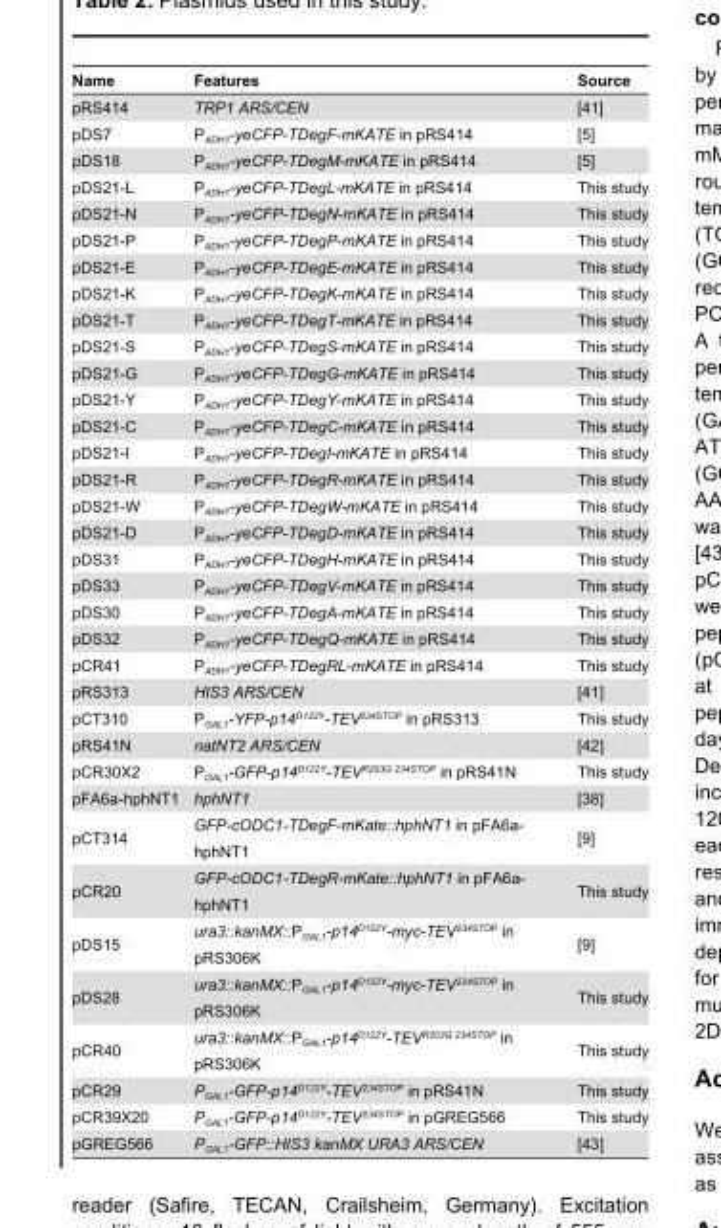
<table><thead><tr><td>Name</td><td>Features</td><td>Source</td></tr></thead><tbody><tr><td>pRS414</td><td>TRP1 ARS/CEN</td><td>[41]</td></tr><tr><td>pDS7</td><td>P<sub>ADH1</sub>-yeCFP-TDegF-mKATE in pRS414</td><td>[5]</td></tr><tr><td>pDS18</td><td>P<sub>ADH1</sub>-yeCFP-TDegM-mKATE in pRS414</td><td>[5]</td></tr><tr><td>pDS21-L</td><td>P<sub>ADH1</sub>-yeCFP-TDegL-mKATE in pRS414</td><td>This study</td></tr><tr><td>pDS21-N</td><td>P<sub>ADH1</sub>-yeCFP-TDegN-mKATE in pRS414</td><td>This study</td></tr><tr><td>pDS21-P</td><td>P<sub>ADH1</sub>-yeCFP-TDegP-mKATE in pRS414</td><td>This study</td></tr><tr><td>pDS21-E</td><td>P<sub>ADH1</sub>-yeCFP-TDegE-mKATE in pRS414</td><td>This study</td></tr><tr><td>pDS21-K</td><td>P<sub>ADH1</sub>-yeCFP-TDegK-mKATE in pRS414</td><td>This study</td></tr><tr><td>pDS21-T</td><td>P<sub>ADH1</sub>-yeCFP-TDegT-mKATE in pRS414</td><td>This study</td></tr><tr><td>pDS21-S</td><td>P<sub>ADH1</sub>-yeCFP-TDegS-mKATE in pRS414</td><td>This study</td></tr><tr><td>pDS21-G</td><td>P<sub>ADH1</sub>-yeCFP-TDegG-mKATE in pRS414</td><td>This study</td></tr><tr><td>pDS21-Y</td><td>P<sub>ADH1</sub>-yeCFP-TDegY-mKATE in pRS414</td><td>This study</td></tr><tr><td>pDS21-C</td><td>P<sub>ADH1</sub>-yeCFP-TDegC-mKATE in pRS414</td><td>This study</td></tr><tr><td>pDS21-I</td><td>P<sub>ADH1</sub>-yeCFP-TDegI-mKATE in pRS414</td><td>This study</td></tr><tr><td>pDS21-R</td><td>P<sub>ADH1</sub>-yeCFP-TDegR-mKATE in pRS414</td><td>This study</td></tr><tr><td>pDS21-W</td><td>P<sub>ADH1</sub>-yeCFP-TDegW-mKATE in pRS414</td><td>This study</td></tr><tr><td>pDS21-D</td><td>P<sub>ADH1</sub>-yeCFP-TDegD-mKATE in pRS414</td><td>This study</td></tr><tr><td>pDS31</td><td>P<sub>ADH1</sub>-yeCFP-TDegH-mKATE in pRS414</td><td>This study</td></tr><tr><td>pDS33</td><td>P<sub>ADH1</sub>-yeCFP-TDegV-mKATE in pRS414</td><td>This study</td></tr><tr><td>pDS30</td><td>P<sub>ADH1</sub>-yeCFP-TDegA-mKATE in pRS414</td><td>This study</td></tr><tr><td>pDS32</td><td>P<sub>ADH1</sub>-yeCFP-TDegQ-mKATE in pRS414</td><td>This study</td></tr><tr><td>pCR41</td><td>P<sub>ADH1</sub>-yeCFP-TDegRL-mKATE in pRS414</td><td>This study</td></tr><tr><td>pRS313</td><td>HIS3 ARS/CEN</td><td>[41]</td></tr><tr><td>pCT310</td><td>P<sub>GAL1</sub>-YFP-p14<sup>D122Y</sup>-TEV<sup>234STOP</sup> in pRS313</td><td>This study</td></tr><tr><td>pRS41N</td><td>natNT2 ARS/CEN</td><td>[42]</td></tr><tr><td>pCR30X2</td><td>P<sub>GAL1</sub>-GFP-p14<sup>D122Y</sup>-TEV<sup>R203G 234STOP</sup> in pRS41N</td><td>This study</td></tr><tr><td>pFA6a-hphNT1</td><td>hphNT1</td><td>[38]</td></tr><tr><td>pCT314</td><td>GFP-cODC1-TDegF-mKate::hphNT1 in pFA6a- hphNT1</td><td>[9]</td></tr><tr><td>pCR20</td><td>GFP-cODC1-TDegR-mKate::hphNT1 in pFA6a- hphNT1</td><td>This study</td></tr><tr><td>pDS15</td><td>ura3::kanMX::P<sub>GAL1</sub>-p14<sup>D122Y</sup>-myc-TEV<sup>234STOP</sup> in pRS306K</td><td>[9]</td></tr><tr><td>pDS28</td><td>ura3::kanMX::P<sub>GAL1</sub>-p14<sup>D122Y</sup>-myc-TEV<sup>224STOP</sup> in pRS306K</td><td>This study</td></tr><tr><td>pCR40</td><td>ura3::kanMX::P<sub>GAL1</sub>-p14<sup>D122Y</sup>-TEV<sup>R203G 234STOP</sup> in pRS306K</td><td>This study</td></tr><tr><td>pCR29</td><td>P<sub>GAL1</sub>-GFP-p14<sup>D122Y</sup>-TEV<sup>234STOP</sup> in pRS41N</td><td>This study</td></tr><tr><td>pCR39X20</td><td>P<sub>GAL1</sub>-GFP-p14<sup>D122Y</sup>-TEV<sup>234STOP</sup> in pGREG566</td><td>This study</td></tr><tr><td>pGREG566</td><td>P<sub>GAL1</sub>-GFP::HIS3 kanMX URA3 ARS/CEN</td><td>[43]</td></tr></tbody></table>